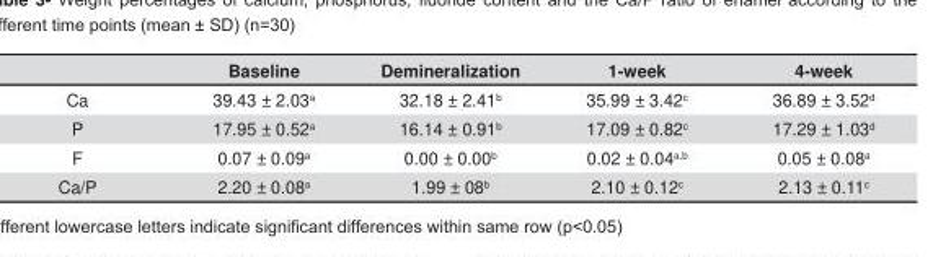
<table><thead><tr><td></td><td>Baseline</td><td>Demineralization</td><td>1-week</td><td>4-week</td></tr></thead><tbody><tr><td>Ca</td><td>39.43 ± 2.03<sup>a</sup></td><td>32.18 ± 2.41<sup>b</sup></td><td>35.99 ± 3.42<sup>c</sup></td><td>36.89 ± 3.52<sup>d</sup></td></tr><tr><td>P</td><td>17.95 ± 0.52<sup>a</sup></td><td>16.14 ± 0.91<sup>b</sup></td><td>17.09 ± 0.82<sup>c</sup></td><td>17.29 ± 1.03<sup>d</sup></td></tr><tr><td>F</td><td>0.07 ± 0.09<sup>a</sup></td><td>0.00 ± 0.00<sup>b</sup></td><td>0.02 ± 0.04<sup>a,b</sup></td><td>0.05 ± 0.08<sup>a</sup></td></tr><tr><td>Ca/P</td><td>2.20 ± 0.08<sup>a</sup></td><td>1.99 ± 08<sup>b</sup></td><td>2.10 ± 0.12<sup>c</sup></td><td>2.13 ± 0.11<sup>c</sup></td></tr></tbody></table>